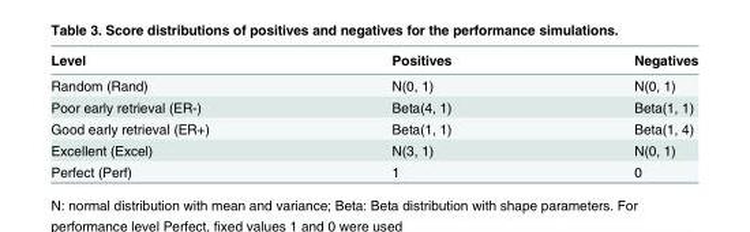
<table><thead><tr><td>Level</td><td>Positives</td><td>Negatives</td></tr></thead><tbody><tr><td>Random (Rand)</td><td>N(0, 1)</td><td>N(0, 1)</td></tr><tr><td>Poor early retrieval (ER-)</td><td>Beta(4, 1)</td><td>Beta(1, 1)</td></tr><tr><td>Good early retrieval (ER+)</td><td>Beta(1, 1)</td><td>Beta(1, 4)</td></tr><tr><td>Excellent (Excel)</td><td>N(3, 1)</td><td>N(0, 1)</td></tr><tr><td>Perfect (Perf)</td><td>1</td><td>0</td></tr></tbody></table>